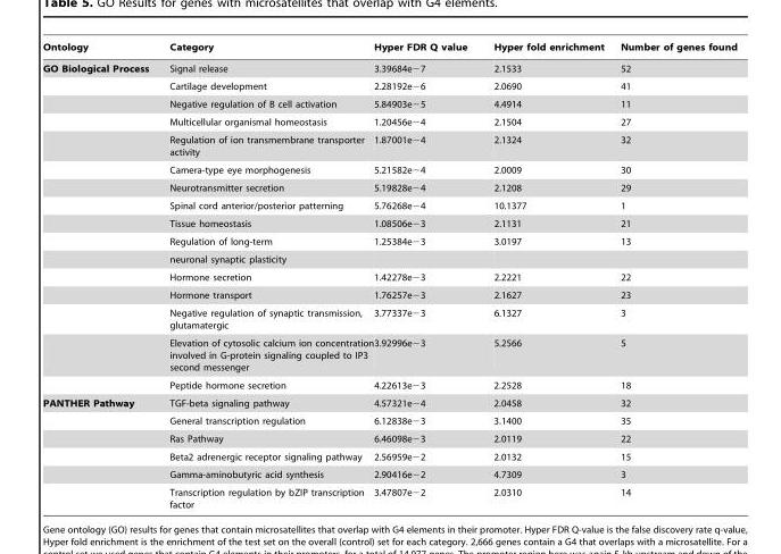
<table><thead><tr><td>Ontology</td><td>Category</td><td>Hyper FDR Q value</td><td>Hyper fold enrichment</td><td>Number of genes found</td></tr></thead><tbody><tr><td rowspan="16">GO Biological Process</td><td>Signal release</td><td>3.39684e−7</td><td>2.1533</td><td>52</td></tr><tr><td>Cartilage development</td><td>2.28192e−6</td><td>2.0690</td><td>41</td></tr><tr><td>Negative regulation of B cell activation</td><td>5.84903e−5</td><td>4.4914</td><td>11</td></tr><tr><td>Multicellular organismal homeostasis</td><td>1.20456e−4</td><td>2.1504</td><td>27</td></tr><tr><td>Regulation of ion transmembrane transporter activity</td><td>1.87001e−4</td><td>2.1324</td><td>32</td></tr><tr><td>Camera-type eye morphogenesis</td><td>5.21582e−4</td><td>2.0009</td><td>30</td></tr><tr><td>Neurotransmitter secretion</td><td>5.19828e−4</td><td>2.1208</td><td>29</td></tr><tr><td>Spinal cord anterior/posterior patterning</td><td>5.76268e−4</td><td>10.1377</td><td>1</td></tr><tr><td>Tissue homeostasis</td><td>1.08506e−3</td><td>2.1131</td><td>21</td></tr><tr><td>Regulation of long-term</td><td>1.25384e−3</td><td>3.0197</td><td>13</td></tr><tr><td>neuronal synaptic plasticity</td><td></td><td></td><td></td></tr><tr><td>Hormone secretion</td><td>1.42278e−3</td><td>2.2221</td><td>22</td></tr><tr><td>Hormone transport</td><td>1.76257e−3</td><td>2.1627</td><td>23</td></tr><tr><td>Negative regulation of synaptic transmission, glutamatergic</td><td>3.77337e−3</td><td>6.1327</td><td>3</td></tr><tr><td>Elevation of cytosolic calcium ion concentration involved in G-protein signaling coupled to IP3 second messenger</td><td>3.92996e−3</td><td>5.2566</td><td>5</td></tr><tr><td>Peptide hormone secretion</td><td>4.22613e−3</td><td>2.2528</td><td>18</td></tr><tr><td rowspan="6">PANTHER Pathway</td><td>TGF-beta signaling pathway</td><td>4.57321e−4</td><td>2.0458</td><td>32</td></tr><tr><td>General transcription regulation</td><td>6.12838e−3</td><td>3.1400</td><td>35</td></tr><tr><td>Ras Pathway</td><td>6.46098e−3</td><td>2.0119</td><td>22</td></tr><tr><td>Beta2 adrenergic receptor signaling pathway</td><td>2.56959e−2</td><td>2.0132</td><td>15</td></tr><tr><td>Gamma-aminobutyric acid synthesis</td><td>2.90416e−2</td><td>4.7309</td><td>3</td></tr><tr><td>Transcription regulation by bZIP transcription factor</td><td>3.47807e−2</td><td>2.0310</td><td>14</td></tr></tbody></table>